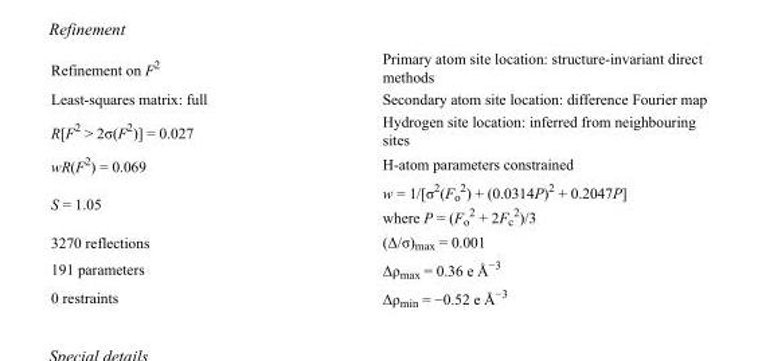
<table><tbody><tr><td>Refinement on F<sup>2</sup></td><td>Primary atom site location: structure-invariant direct methods</td></tr><tr><td>Least-squares matrix: full</td><td>Secondary atom site location: difference Fourier map</td></tr><tr><td>R[F<sup>2</sup> &gt; 2σ(F<sup>2</sup>)] = 0.027</td><td>Hydrogen site location: inferred from neighbouring sites</td></tr><tr><td>wR(F<sup>2</sup>) = 0.069</td><td>H-atom parameters constrained</td></tr><tr><td>S = 1.05</td><td>w = 1/[σ<sup>2</sup>(F<sub>o</sub> <sup>2</sup>) + (0.0314P)<sup>2</sup> + 0.2047P] where P = (F<sub>o</sub> <sup>2</sup> + 2F<sub>c</sub> <sup>2</sup>)/3</td></tr><tr><td>3270 reflections</td><td>(Δ/σ)<sub>max</sub> = 0.001</td></tr><tr><td>191 parameters</td><td>Δρ<sub>max</sub> = 0.36 e Å<sup>−3</sup></td></tr><tr><td>0 restraints</td><td>Δρ<sub>min</sub> = −0.52 e Å<sup>−3</sup></td></tr></tbody></table>